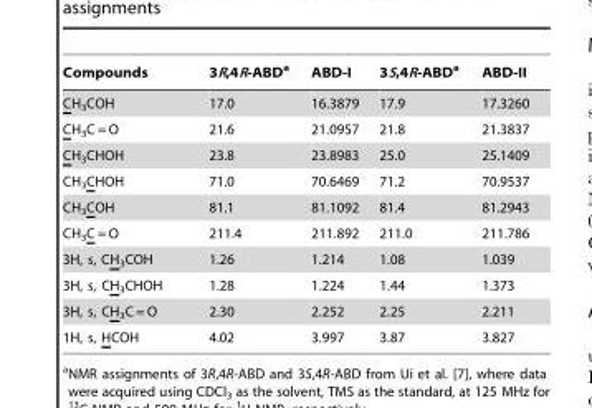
<table><thead><tr><td>Compounds</td><td>3R,4R-ABD<sup>a</sup></td><td>ABD-I</td><td>3S,4R-ABD<sup>a</sup></td><td>ABD-II</td></tr></thead><tbody><tr><td>CH<sub>3</sub>COH</td><td>17.0</td><td>16.3879</td><td>17.9</td><td>17.3260</td></tr><tr><td>CH<sub>3</sub>C = O</td><td>21.6</td><td>21.0957</td><td>21.8</td><td>21.3837</td></tr><tr><td>CH<sub>3</sub>CHOH</td><td>23.8</td><td>23.8983</td><td>25.0</td><td>25.1409</td></tr><tr><td>CH<sub>3</sub>CHOH</td><td>71.0</td><td>70.6469</td><td>71.2</td><td>70.9537</td></tr><tr><td>CH<sub>3</sub>COH</td><td>81.1</td><td>81.1092</td><td>81.4</td><td>81.2943</td></tr><tr><td>CH<sub>3</sub>C = O</td><td>211.4</td><td>211.892</td><td>211.0</td><td>211.786</td></tr><tr><td>3H, s, CH<sub>3</sub>COH</td><td>1.26</td><td>1.214</td><td>1.08</td><td>1.039</td></tr><tr><td>3H, s, CH<sub>3</sub>CHOH</td><td>1.28</td><td>1.224</td><td>1.44</td><td>1.373</td></tr><tr><td>3H, s, CH<sub>3</sub>C = O</td><td>2.30</td><td>2.252</td><td>2.25</td><td>2.211</td></tr><tr><td>1H, s, HCOH</td><td>4.02</td><td>3.997</td><td>3.87</td><td>3.827</td></tr></tbody></table>